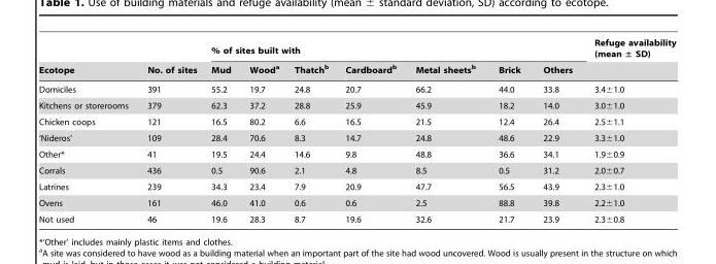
<table><thead><tr><td rowspan="2">Ecotope</td><td rowspan="2">No. of sites</td><td colspan="7">% of sites built with</td><td rowspan="2">Refuge availability (mean ± SD)</td></tr><tr><td>Mud</td><td>Wood<sup>a</sup></td><td>Thatch<sup>b</sup></td><td>Cardboard<sup>b</sup></td><td>Metal sheets<sup>b</sup></td><td>Brick</td><td>Others</td></tr></thead><tbody><tr><td>Domiciles</td><td>391</td><td>55.2</td><td>19.7</td><td>24.8</td><td>20.7</td><td>66.2</td><td>44.0</td><td>33.8</td><td>3.4±1.0</td></tr><tr><td>Kitchens or storerooms</td><td>379</td><td>62.3</td><td>37.2</td><td>28.8</td><td>25.9</td><td>45.9</td><td>18.2</td><td>14.0</td><td>3.0±1.0</td></tr><tr><td>Chicken coops</td><td>121</td><td>16.5</td><td>80.2</td><td>6.6</td><td>16.5</td><td>21.5</td><td>12.4</td><td>26.4</td><td>2.5±1.1</td></tr><tr><td>‘Nideros’</td><td>109</td><td>28.4</td><td>70.6</td><td>8.3</td><td>14.7</td><td>24.8</td><td>48.6</td><td>22.9</td><td>3.3±1.0</td></tr><tr><td>Other*</td><td>41</td><td>19.5</td><td>24.4</td><td>14.6</td><td>9.8</td><td>48.8</td><td>36.6</td><td>34.1</td><td>1.9±0.9</td></tr><tr><td>Corrals</td><td>436</td><td>0.5</td><td>90.6</td><td>2.1</td><td>4.8</td><td>8.5</td><td>0.5</td><td>31.2</td><td>2.0±0.7</td></tr><tr><td>Latrines</td><td>239</td><td>34.3</td><td>23.4</td><td>7.9</td><td>20.9</td><td>47.7</td><td>56.5</td><td>43.9</td><td>2.3±1.0</td></tr><tr><td>Ovens</td><td>161</td><td>46.0</td><td>41.0</td><td>0.6</td><td>0.6</td><td>2.5</td><td>88.8</td><td>39.8</td><td>2.2±1.0</td></tr><tr><td>Not used</td><td>46</td><td>19.6</td><td>28.3</td><td>8.7</td><td>19.6</td><td>32.6</td><td>21.7</td><td>23.9</td><td>2.3±0.8</td></tr></tbody></table>